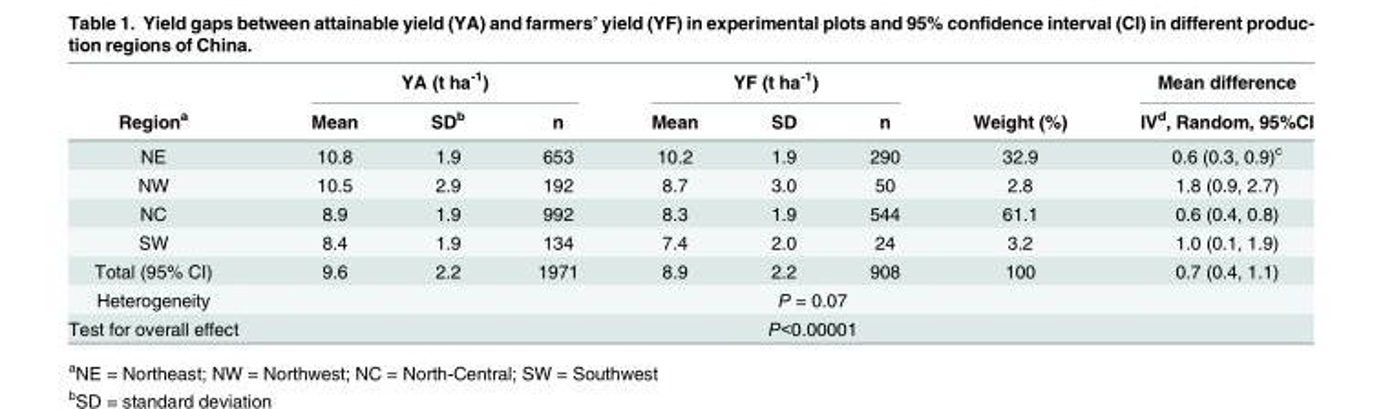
<table><thead><tr><td rowspan="2">Region<sup>a</sup></td><td colspan="3">YA (t ha<sup>-1</sup>)</td><td colspan="3">YF (t ha<sup>-1</sup>)</td><td rowspan="2">Weight (%)</td><td rowspan="2">Mean difference IV<sup>d</sup>, Random, 95%CI</td></tr><tr><td>Mean</td><td>SD<sup>b</sup></td><td>n</td><td>Mean</td><td>SD</td><td>n</td></tr></thead><tbody><tr><td>NE</td><td>10.8</td><td>1.9</td><td>653</td><td>10.2</td><td>1.9</td><td>290</td><td>32.9</td><td>0.6 (0.3, 0.9)<sup>c</sup></td></tr><tr><td>NW</td><td>10.5</td><td>2.9</td><td>192</td><td>8.7</td><td>3.0</td><td>50</td><td>2.8</td><td>1.8 (0.9, 2.7)</td></tr><tr><td>NC</td><td>8.9</td><td>1.9</td><td>992</td><td>8.3</td><td>1.9</td><td>544</td><td>61.1</td><td>0.6 (0.4, 0.8)</td></tr><tr><td>SW</td><td>8.4</td><td>1.9</td><td>134</td><td>7.4</td><td>2.0</td><td>24</td><td>3.2</td><td>1.0 (0.1, 1.9)</td></tr><tr><td>Total (95% CI)</td><td>9.6</td><td>2.2</td><td>1971</td><td>8.9</td><td>2.2</td><td>908</td><td>100</td><td>0.7 (0.4, 1.1)</td></tr><tr><td>Heterogeneity</td><td colspan="8">P = 0.07</td></tr><tr><td>Test for overall effect</td><td colspan="8">P&lt;0.00001</td></tr></tbody></table>